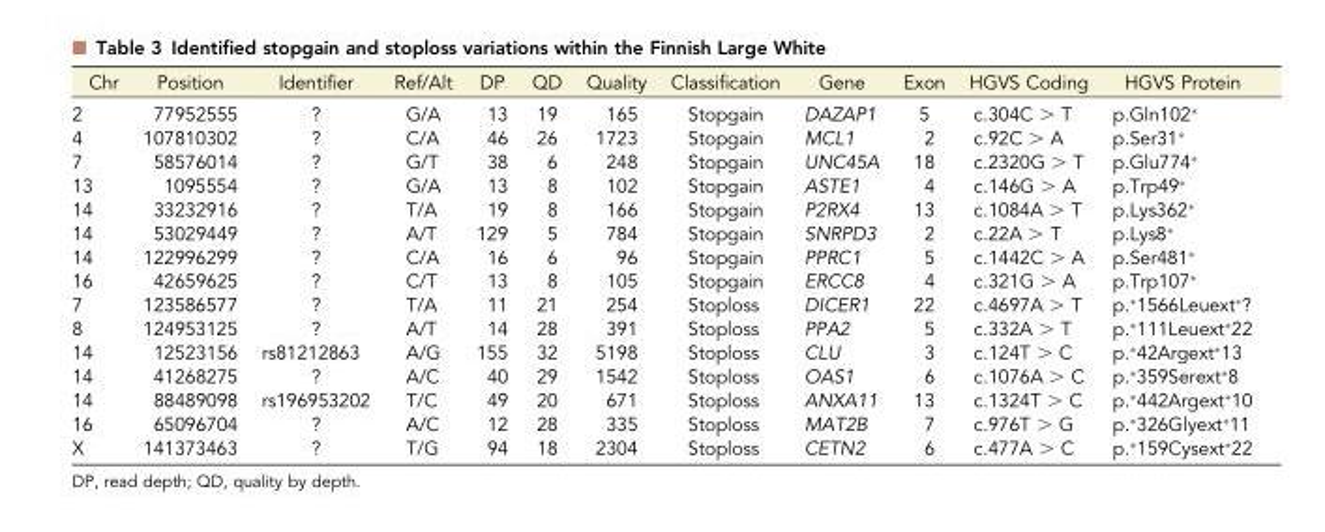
<table><thead><tr><td>Chr</td><td>Position</td><td>Identifier</td><td>Ref/Alt</td><td>DP</td><td>QD</td><td>Quality</td><td>Classification</td><td>Gene</td><td>Exon</td><td>HGVS Coding</td><td>HGVS Protein</td></tr></thead><tbody><tr><td>2</td><td>77952555</td><td>?</td><td>G/A</td><td>13</td><td>19</td><td>165</td><td>Stopgain</td><td>DAZAP1</td><td>5</td><td>c.304C &gt; T</td><td>p.Gln102*</td></tr><tr><td>4</td><td>107810302</td><td>?</td><td>C/A</td><td>46</td><td>26</td><td>1723</td><td>Stopgain</td><td>MCL1</td><td>2</td><td>c.92C &gt; A</td><td>p.Ser31*</td></tr><tr><td>7</td><td>58576014</td><td>?</td><td>G/T</td><td>38</td><td>6</td><td>248</td><td>Stopgain</td><td>UNC45A</td><td>18</td><td>c.2320G &gt; T</td><td>p.Glu774*</td></tr><tr><td>13</td><td>1095554</td><td>?</td><td>G/A</td><td>13</td><td>8</td><td>102</td><td>Stopgain</td><td>ASTE1</td><td>4</td><td>c.146G &gt; A</td><td>p.Trp49*</td></tr><tr><td>14</td><td>33232916</td><td>?</td><td>T/A</td><td>19</td><td>8</td><td>166</td><td>Stopgain</td><td>P2RX4</td><td>13</td><td>c.1084A &gt; T</td><td>p.Lys362*</td></tr><tr><td>14</td><td>53029449</td><td>?</td><td>A/T</td><td>129</td><td>5</td><td>784</td><td>Stopgain</td><td>SNRPD3</td><td>2</td><td>c.22A &gt; T</td><td>p.Lys8*</td></tr><tr><td>14</td><td>122996299</td><td>?</td><td>C/A</td><td>16</td><td>6</td><td>96</td><td>Stopgain</td><td>PPRC1</td><td>5</td><td>c.1442C &gt; A</td><td>p.Ser481*</td></tr><tr><td>16</td><td>42659625</td><td>?</td><td>C/T</td><td>13</td><td>8</td><td>105</td><td>Stopgain</td><td>ERCC8</td><td>4</td><td>c.321G &gt; A</td><td>p.Trp107*</td></tr><tr><td>7</td><td>123586577</td><td>?</td><td>T/A</td><td>11</td><td>21</td><td>254</td><td>Stoploss</td><td>DICER1</td><td>22</td><td>c.4697A &gt; T</td><td>p.*1566Leuext*?</td></tr><tr><td>8</td><td>124953125</td><td>?</td><td>A/T</td><td>14</td><td>28</td><td>391</td><td>Stoploss</td><td>PPA2</td><td>5</td><td>c.332A &gt; T</td><td>p.*111Leuext*22</td></tr><tr><td>14</td><td>12523156</td><td>rs81212863</td><td>A/G</td><td>155</td><td>32</td><td>5198</td><td>Stoploss</td><td>CLU</td><td>3</td><td>c.124T &gt; C</td><td>p.*42Argext*13</td></tr><tr><td>14</td><td>41268275</td><td>?</td><td>A/C</td><td>40</td><td>29</td><td>1542</td><td>Stoploss</td><td>OAS1</td><td>6</td><td>c.1076A &gt; C</td><td>p.*359Serext*8</td></tr><tr><td>14</td><td>88489098</td><td>rs196953202</td><td>T/C</td><td>49</td><td>20</td><td>671</td><td>Stoploss</td><td>ANXA11</td><td>13</td><td>c.1324T &gt; C</td><td>p.*442Argext*10</td></tr><tr><td>16</td><td>65096704</td><td>?</td><td>A/C</td><td>12</td><td>28</td><td>335</td><td>Stoploss</td><td>MAT2B</td><td>7</td><td>c.976T &gt; G</td><td>p.*326Glyext*11</td></tr><tr><td>X</td><td>141373463</td><td>?</td><td>T/G</td><td>94</td><td>18</td><td>2304</td><td>Stoploss</td><td>CETN2</td><td>6</td><td>c.477A &gt; C</td><td>p.*159Cysext*22</td></tr></tbody></table>